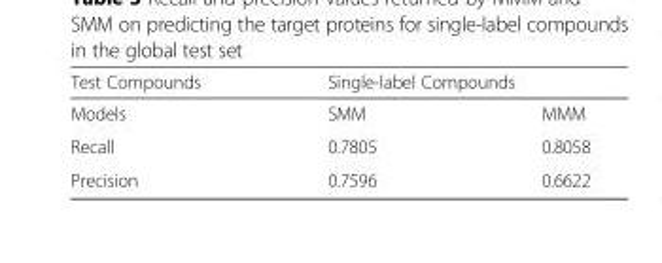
<table><thead><tr><td rowspan="2">Test Compounds Models</td><td colspan="2">Single-label Compounds</td></tr><tr><td>SMM</td><td>MMM</td></tr></thead><tbody><tr><td>Recall</td><td>0.7805</td><td>0.8058</td></tr><tr><td>Precision</td><td>0.7596</td><td>0.6622</td></tr></tbody></table>